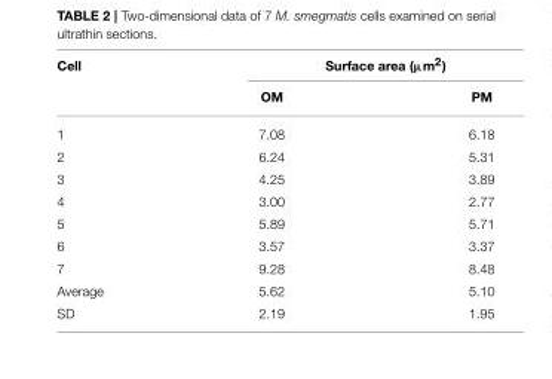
<table><thead><tr><td rowspan="2">Cell</td><td colspan="2">Surface area (µm<sup>2</sup>)</td></tr><tr><td>OM</td><td>PM</td></tr></thead><tbody><tr><td>1</td><td>7.08</td><td>6.18</td></tr><tr><td>2</td><td>6.24</td><td>5.31</td></tr><tr><td>3</td><td>4.25</td><td>3.89</td></tr><tr><td>4</td><td>3.00</td><td>2.77</td></tr><tr><td>5</td><td>5.89</td><td>5.71</td></tr><tr><td>6</td><td>3.57</td><td>3.37</td></tr><tr><td>7</td><td>9.28</td><td>8.48</td></tr><tr><td>Average</td><td>5.62</td><td>5.10</td></tr><tr><td>SD</td><td>2.19</td><td>1.95</td></tr></tbody></table>